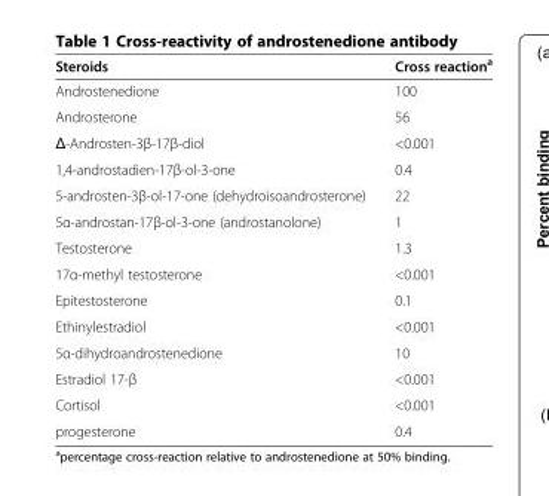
<table><thead><tr><td>Steroids</td><td>Cross reaction<sup>a</sup></td></tr></thead><tbody><tr><td>Androstenedione</td><td>100</td></tr><tr><td>Androsterone</td><td>56</td></tr><tr><td>Δ-Androsten-3β-17β-diol</td><td>&lt;0.001</td></tr><tr><td>1,4-androstadien-17β-ol-3-one</td><td>0.4</td></tr><tr><td>5-androsten-3β-ol-17-one (dehydroisoandrosterone)</td><td>22</td></tr><tr><td>5α-androstan-17β-ol-3-one (androstanolone)</td><td>1</td></tr><tr><td>Testosterone</td><td>1.3</td></tr><tr><td>17α-methyl testosterone</td><td>&lt;0.001</td></tr><tr><td>Epitestosterone</td><td>0.1</td></tr><tr><td>Ethinylestradiol</td><td>&lt;0.001</td></tr><tr><td>5α-dihydroandrostenedione</td><td>10</td></tr><tr><td>Estradiol 17-β</td><td>&lt;0.001</td></tr><tr><td>Cortisol</td><td>&lt;0.001</td></tr><tr><td>progesterone</td><td>0.4</td></tr></tbody></table>